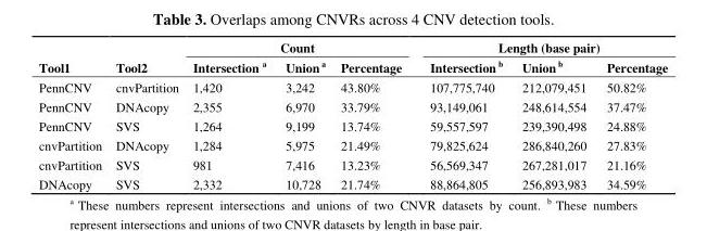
<table><thead><tr><td rowspan="2">Tool1</td><td rowspan="2">Tool2</td><td colspan="3">Count</td><td colspan="3">Length (base pair)</td></tr><tr><td>Intersection <sup>a</sup></td><td>Union <sup>a</sup></td><td>Percentage</td><td>Intersection <sup>b</sup></td><td>Union <sup>b</sup></td><td>Percentage</td></tr></thead><tbody><tr><td>PennCNV</td><td>cnvPartition</td><td>1,420</td><td>3,242</td><td>43.80%</td><td>107,775,740</td><td>212,079,451</td><td>50.82%</td></tr><tr><td>PennCNV</td><td>DNAcopy</td><td>2,355</td><td>6,970</td><td>33.79%</td><td>93,149,061</td><td>248,614,554</td><td>37.47%</td></tr><tr><td>PennCNV</td><td>SVS</td><td>1,264</td><td>9,199</td><td>13.74%</td><td>59,557,597</td><td>239,390,498</td><td>24.88%</td></tr><tr><td>cnvPartition</td><td>DNAcopy</td><td>1,284</td><td>5,975</td><td>21.49%</td><td>79,825,624</td><td>286,840,260</td><td>27.83%</td></tr><tr><td>cnvPartition</td><td>SVS</td><td>981</td><td>7,416</td><td>13.23%</td><td>56,569,347</td><td>267,281,017</td><td>21.16%</td></tr><tr><td>DNAcopy</td><td>SVS</td><td>2,332</td><td>10,728</td><td>21.74%</td><td>88,864,805</td><td>256,893,983</td><td>34.59%</td></tr></tbody></table>